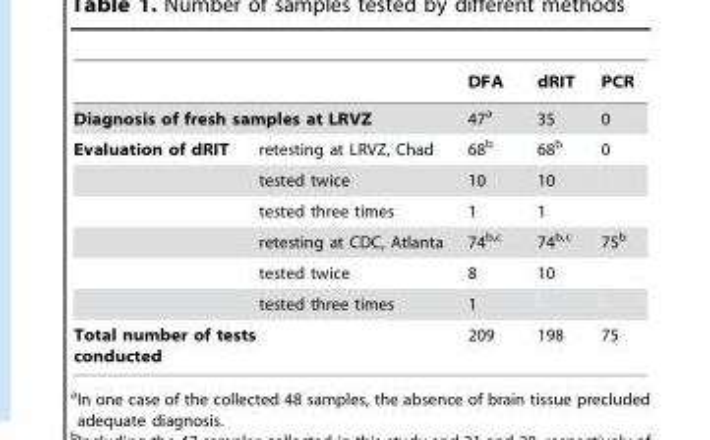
<table><thead><tr><td></td><td></td><td>DFA</td><td>dRIT</td><td>PCR</td></tr></thead><tbody><tr><td colspan="2">Diagnosis of fresh samples at LRVZ</td><td>47<sup>a</sup></td><td>35</td><td>0</td></tr><tr><td rowspan="6">Evaluation of dRIT</td><td>retesting at LRVZ, Chad</td><td>68<sup>b</sup></td><td>68<sup>b</sup></td><td>0</td></tr><tr><td>tested twice</td><td>10</td><td>10</td><td></td></tr><tr><td>tested three times</td><td>1</td><td>1</td><td></td></tr><tr><td>retesting at CDC, Atlanta</td><td>74<sup>b</sup>,<sup>c</sup></td><td>74<sup>b</sup>,<sup>c</sup></td><td>75<sup>b</sup></td></tr><tr><td>tested twice</td><td>8</td><td>10</td><td></td></tr><tr><td>tested three times</td><td>1</td><td></td><td></td></tr><tr><td>Total number of tests conducted</td><td></td><td>209</td><td>198</td><td>75</td></tr></tbody></table>